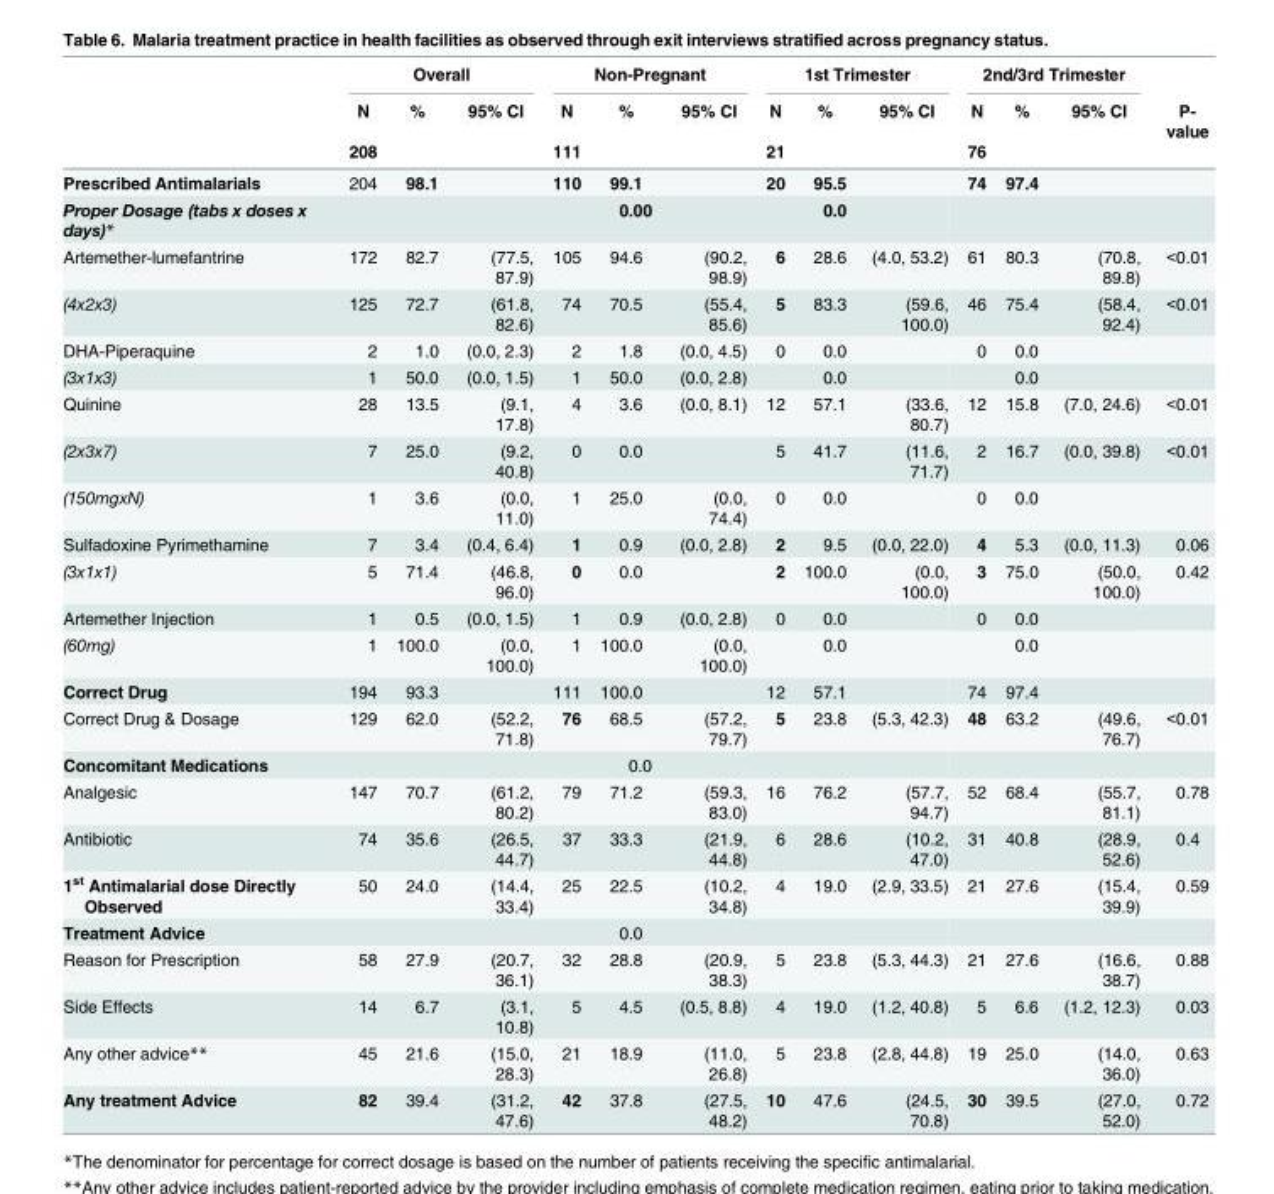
<table><thead><tr><td rowspan="3"></td><td colspan="3">Overall</td><td colspan="3">Non-Pregnant</td><td colspan="3">1st Trimester</td><td colspan="3">2nd/3rd Trimester</td><td rowspan="3">P- value</td></tr><tr><td rowspan="2">N 208</td><td rowspan="2">%</td><td rowspan="2">95% CI</td><td rowspan="2">N 111</td><td rowspan="2">%</td><td rowspan="2">95% CI</td><td rowspan="2">N 21</td><td rowspan="2">%</td><td rowspan="2">95% CI</td><td rowspan="2">N 76</td><td rowspan="2">%</td><td rowspan="2">95% CI</td></tr><tr></tr></thead><tbody><tr><td>Prescribed Antimalarials</td><td>204</td><td>98.1</td><td></td><td>110</td><td>99.1</td><td></td><td>20</td><td>95.5</td><td></td><td>74</td><td>97.4</td><td></td><td></td></tr><tr><td>Proper Dosage (tabs x doses x days)*</td><td></td><td></td><td></td><td></td><td>0.00</td><td></td><td></td><td>0.0</td><td></td><td></td><td></td><td></td><td></td></tr><tr><td>Artemether-lumefantrine</td><td>172</td><td>82.7</td><td>(77.5, 87.9)</td><td>105</td><td>94.6</td><td>(90.2, 98.9)</td><td>6</td><td>28.6</td><td>(4.0, 53.2)</td><td>61</td><td>80.3</td><td>(70.8, 89.8)</td><td>&lt;0.01</td></tr><tr><td>(4x2x3)</td><td>125</td><td>72.7</td><td>(61.8, 82.6)</td><td>74</td><td>70.5</td><td>(55.4, 85.6)</td><td>5</td><td>83.3</td><td>(59.6, 100.0)</td><td>46</td><td>75.4</td><td>(58.4, 92.4)</td><td>&lt;0.01</td></tr><tr><td>DHA-Piperaquine</td><td>2</td><td>1.0</td><td>(0.0, 2.3)</td><td>2</td><td>1.8</td><td>(0.0, 4.5)</td><td>0</td><td>0.0</td><td></td><td>0</td><td>0.0</td><td></td><td></td></tr><tr><td>(3x1x3)</td><td>1</td><td>50.0</td><td>(0.0, 1.5)</td><td>1</td><td>50.0</td><td>(0.0, 2.8)</td><td></td><td>0.0</td><td></td><td></td><td>0.0</td><td></td><td></td></tr><tr><td>Quinine</td><td>28</td><td>13.5</td><td>(9.1, 17.8)</td><td>4</td><td>3.6</td><td>(0.0, 8.1)</td><td>12</td><td>57.1</td><td>(33.6, 80.7)</td><td>12</td><td>15.8</td><td>(7.0, 24.6)</td><td>&lt;0.01</td></tr><tr><td>(2x3x7)</td><td>7</td><td>25.0</td><td>(9.2, 40.8)</td><td>0</td><td>0.0</td><td></td><td>5</td><td>41.7</td><td>(11.6, 71.7)</td><td>2</td><td>16.7</td><td>(0.0, 39.8)</td><td>&lt;0.01</td></tr><tr><td>(150mgxN)</td><td>1</td><td>3.6</td><td>(0.0, 11.0)</td><td>1</td><td>25.0</td><td>(0.0, 74.4)</td><td>0</td><td>0.0</td><td></td><td>0</td><td>0.0</td><td></td><td></td></tr><tr><td>Sulfadoxine Pyrimethamine</td><td>7</td><td>3.4</td><td>(0.4, 6.4)</td><td>1</td><td>0.9</td><td>(0.0, 2.8)</td><td>2</td><td>9.5</td><td>(0.0, 22.0)</td><td>4</td><td>5.3</td><td>(0.0, 11.3)</td><td>0.06</td></tr><tr><td>(3x1x1)</td><td>5</td><td>71.4</td><td>(46.8, 96.0)</td><td>0</td><td>0.0</td><td></td><td>2</td><td>100.0</td><td>(0.0, 100.0)</td><td>3</td><td>75.0</td><td>(50.0, 100.0)</td><td>0.42</td></tr><tr><td>Artemether Injection</td><td>1</td><td>0.5</td><td>(0.0, 1.5)</td><td>1</td><td>0.9</td><td>(0.0, 2.8)</td><td>0</td><td>0.0</td><td></td><td>0</td><td>0.0</td><td></td><td></td></tr><tr><td>(60mg)</td><td>1</td><td>100.0</td><td>(0.0, 100.0)</td><td>1</td><td>100.0</td><td>(0.0, 100.0)</td><td></td><td>0.0</td><td></td><td></td><td>0.0</td><td></td><td></td></tr><tr><td>Correct Drug</td><td>194</td><td>93.3</td><td></td><td>111</td><td>100.0</td><td></td><td>12</td><td>57.1</td><td></td><td>74</td><td>97.4</td><td></td><td></td></tr><tr><td>Correct Drug &amp; Dosage</td><td>129</td><td>62.0</td><td>(52.2, 71.8)</td><td>76</td><td>68.5</td><td>(57.2, 79.7)</td><td>5</td><td>23.8</td><td>(5.3, 42.3)</td><td>48</td><td>63.2</td><td>(49.6, 76.7)</td><td>&lt;0.01</td></tr><tr><td>Concomitant Medications</td><td></td><td></td><td></td><td></td><td>0.0</td><td></td><td></td><td></td><td></td><td></td><td></td><td></td><td></td></tr><tr><td>Analgesic</td><td>147</td><td>70.7</td><td>(61.2, 80.2)</td><td>79</td><td>71.2</td><td>(59.3, 83.0)</td><td>16</td><td>76.2</td><td>(57.7, 94.7)</td><td>52</td><td>68.4</td><td>(55.7, 81.1)</td><td>0.78</td></tr><tr><td>Antibiotic</td><td>74</td><td>35.6</td><td>(26.5, 44.7)</td><td>37</td><td>33.3</td><td>(21.9, 44.8)</td><td>6</td><td>28.6</td><td>(10.2, 47.0)</td><td>31</td><td>40.8</td><td>(28.9, 52.6)</td><td>0.4</td></tr><tr><td>1<sup>st</sup> Antimalarial dose Directly Observed</td><td>50</td><td>24.0</td><td>(14.4, 33.4)</td><td>25</td><td>22.5</td><td>(10.2, 34.8)</td><td>4</td><td>19.0</td><td>(2.9, 33.5)</td><td>21</td><td>27.6</td><td>(15.4, 39.9)</td><td>0.59</td></tr><tr><td>Treatment Advice</td><td></td><td></td><td></td><td></td><td>0.0</td><td></td><td></td><td></td><td></td><td></td><td></td><td></td><td></td></tr><tr><td>Reason for Prescription</td><td>58</td><td>27.9</td><td>(20.7, 36.1)</td><td>32</td><td>28.8</td><td>(20.9, 38.3)</td><td>5</td><td>23.8</td><td>(5.3, 44.3)</td><td>21</td><td>27.6</td><td>(16.6, 38.7)</td><td>0.88</td></tr><tr><td>Side Effects</td><td>14</td><td>6.7</td><td>(3.1, 10.8)</td><td>5</td><td>4.5</td><td>(0.5, 8.8)</td><td>4</td><td>19.0</td><td>(1.2, 40.8)</td><td>5</td><td>6.6</td><td>(1.2, 12.3)</td><td>0.03</td></tr><tr><td>Any other advice**</td><td>45</td><td>21.6</td><td>(15.0, 28.3)</td><td>21</td><td>18.9</td><td>(11.0, 26.8)</td><td>5</td><td>23.8</td><td>(2.8, 44.8)</td><td>19</td><td>25.0</td><td>(14.0, 36.0)</td><td>0.63</td></tr><tr><td>Any treatment Advice</td><td>82</td><td>39.4</td><td>(31.2, 47.6)</td><td>42</td><td>37.8</td><td>(27.5, 48.2)</td><td>10</td><td>47.6</td><td>(24.5, 70.8)</td><td>30</td><td>39.5</td><td>(27.0, 52.0)</td><td>0.72</td></tr></tbody></table>